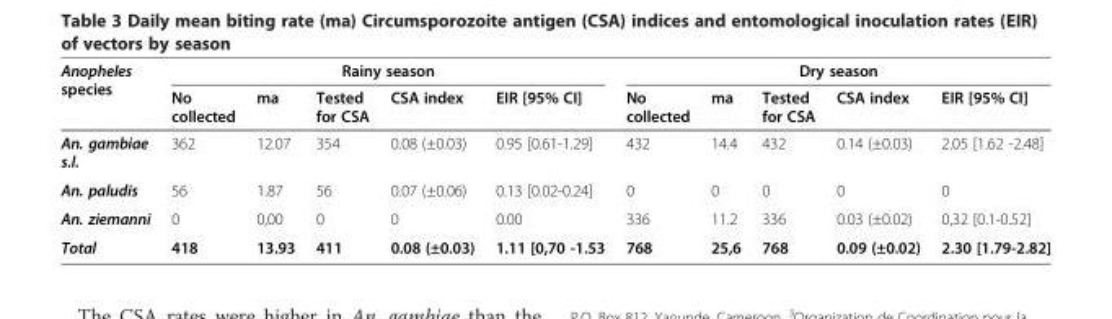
<table><thead><tr><td rowspan="2">Anopheles species</td><td colspan="5">Rainy season</td><td colspan="5">Dry season</td></tr><tr><td>No collected</td><td>ma</td><td>Tested for CSA</td><td>CSA index</td><td>EIR [95% CI]</td><td>No collected</td><td>ma</td><td>Tested for CSA</td><td>CSA index</td><td>EIR [95% CI]</td></tr></thead><tbody><tr><td>An. gambiae s.l.</td><td>362</td><td>12.07</td><td>354</td><td>0.08 (±0.03)</td><td>0.95 [0.61-1.29]</td><td>432</td><td>14.4</td><td>432</td><td>0.14 (±0.03)</td><td>2.05 [1.62 -2.48]</td></tr><tr><td>An. paludis</td><td>56</td><td>1.87</td><td>56</td><td>0.07 (±0.06)</td><td>0.13 [0.02-0.24]</td><td>0</td><td>0</td><td>0</td><td>0</td><td>0</td></tr><tr><td>An. ziemanni</td><td>0</td><td>0,00</td><td>0</td><td>0</td><td>0.00</td><td>336</td><td>11.2</td><td>336</td><td>0.03 (±0.02)</td><td>0,32 [0.1-0.52]</td></tr><tr><td>Total</td><td>418</td><td>13.93</td><td>411</td><td>0.08 (±0.03)</td><td>1.11 [0,70 -1.53</td><td>768</td><td>25,6</td><td>768</td><td>0.09 (±0.02)</td><td>2.30 [1.79-2.82]</td></tr></tbody></table>